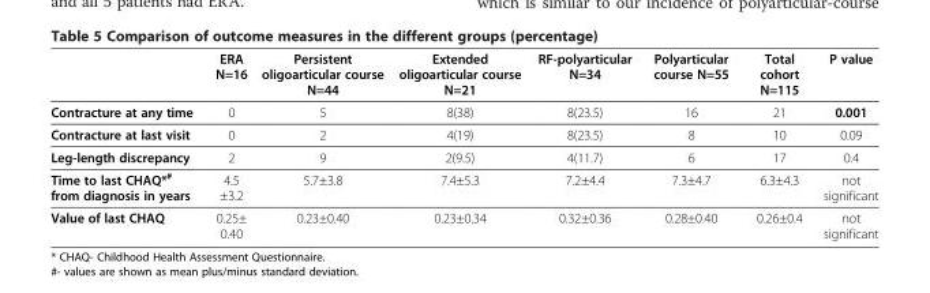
<table><thead><tr><td></td><td>ERA N=16</td><td>Persistent oligoarticular course N=44</td><td>Extended oligoarticular course N=21</td><td>RF-polyarticular N=34</td><td>Polyarticular course N=55</td><td>Total cohort N=115</td><td>P value</td></tr></thead><tbody><tr><td>Contracture at any time</td><td>0</td><td>5</td><td>8(38)</td><td>8(23.5)</td><td>16</td><td>21</td><td>0.001</td></tr><tr><td>Contracture at last visit</td><td>0</td><td>2</td><td>4(19)</td><td>8(23.5)</td><td>8</td><td>10</td><td>0.09</td></tr><tr><td>Leg-length discrepancy</td><td>2</td><td>9</td><td>2(9.5)</td><td>4(11.7)</td><td>6</td><td>17</td><td>0.4</td></tr><tr><td>Time to last CHAQ*<sup>#</sup> from diagnosis in years</td><td>4.5 ±3.2</td><td>5.7±3.8</td><td>7.4±5.3</td><td>7.2±4.4</td><td>7.3±4.7</td><td>6.3±4.3</td><td>not significant</td></tr><tr><td>Value of last CHAQ</td><td>0.25± 0.40</td><td>0.23±0.40</td><td>0.23±0.34</td><td>0.32±0.36</td><td>0.28±0.40</td><td>0.26±0.4</td><td>not significant</td></tr></tbody></table>